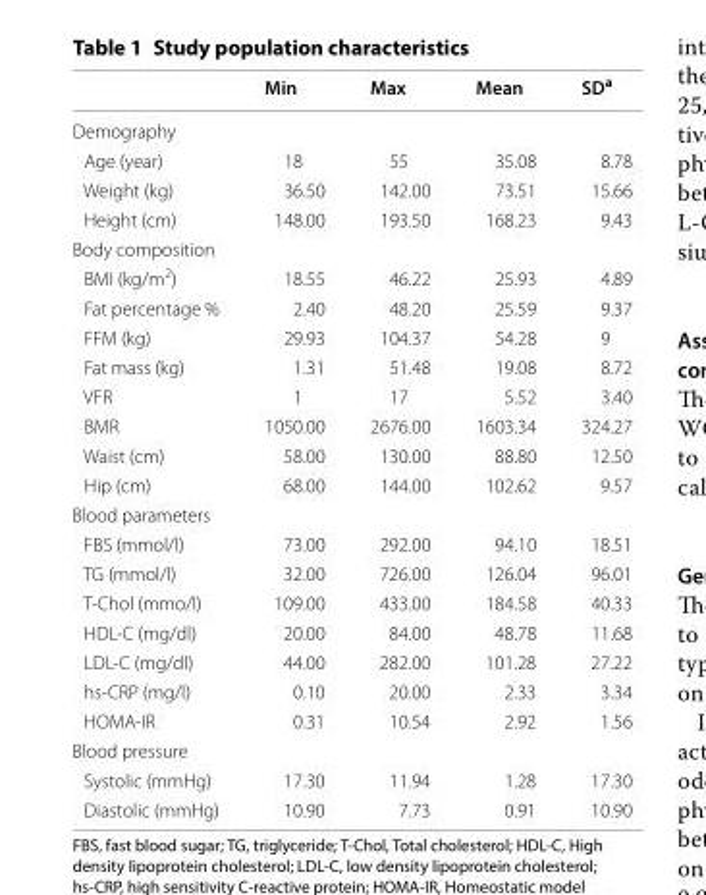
<table><thead><tr><td></td><td>Min</td><td>Max</td><td>Mean</td><td>SD<sup>a</sup></td></tr></thead><tbody><tr><td colspan="5">Demography</td></tr><tr><td>Age (year)</td><td>18</td><td>55</td><td>35.08</td><td>8.78</td></tr><tr><td>Weight (kg)</td><td>36.50</td><td>142.00</td><td>73.51</td><td>15.66</td></tr><tr><td>Height (cm)</td><td>148.00</td><td>193.50</td><td>168.23</td><td>9.43</td></tr><tr><td colspan="5">Body composition</td></tr><tr><td>BMI (kg/m<sup>2</sup>)</td><td>18.55</td><td>46.22</td><td>25.93</td><td>4.89</td></tr><tr><td>Fat percentage %</td><td>2.40</td><td>48.20</td><td>25.59</td><td>9.37</td></tr><tr><td>FFM (kg)</td><td>29.93</td><td>104.37</td><td>54.28</td><td>9</td></tr><tr><td>Fat mass (kg)</td><td>1.31</td><td>51.48</td><td>19.08</td><td>8.72</td></tr><tr><td>VFR</td><td>1</td><td>17</td><td>5.52</td><td>3.40</td></tr><tr><td>BMR</td><td>1050.00</td><td>2676.00</td><td>1603.34</td><td>324.27</td></tr><tr><td>Waist (cm)</td><td>58.00</td><td>130.00</td><td>88.80</td><td>12.50</td></tr><tr><td>Hip (cm)</td><td>68.00</td><td>144.00</td><td>102.62</td><td>9.57</td></tr><tr><td colspan="5">Blood parameters</td></tr><tr><td>FBS (mmol/l)</td><td>73.00</td><td>292.00</td><td>94.10</td><td>18.51</td></tr><tr><td>TG (mmol/l)</td><td>32.00</td><td>726.00</td><td>126.04</td><td>96.01</td></tr><tr><td>T-Chol (mmo/l)</td><td>109.00</td><td>433.00</td><td>184.58</td><td>40.33</td></tr><tr><td>HDL-C (mg/dl)</td><td>20.00</td><td>84.00</td><td>48.78</td><td>11.68</td></tr><tr><td>LDL-C (mg/dl)</td><td>44.00</td><td>282.00</td><td>101.28</td><td>27.22</td></tr><tr><td>hs-CRP (mg/l)</td><td>0.10</td><td>20.00</td><td>2.33</td><td>3.34</td></tr><tr><td>HOMA-IR</td><td>0.31</td><td>10.54</td><td>2.92</td><td>1.56</td></tr><tr><td colspan="5">Blood pressure</td></tr><tr><td>Systolic (mmHg)</td><td>17.30</td><td>11.94</td><td>1.28</td><td>17.30</td></tr><tr><td>Diastolic (mmHg)</td><td>10.90</td><td>7.73</td><td>0.91</td><td>10.90</td></tr></tbody></table>